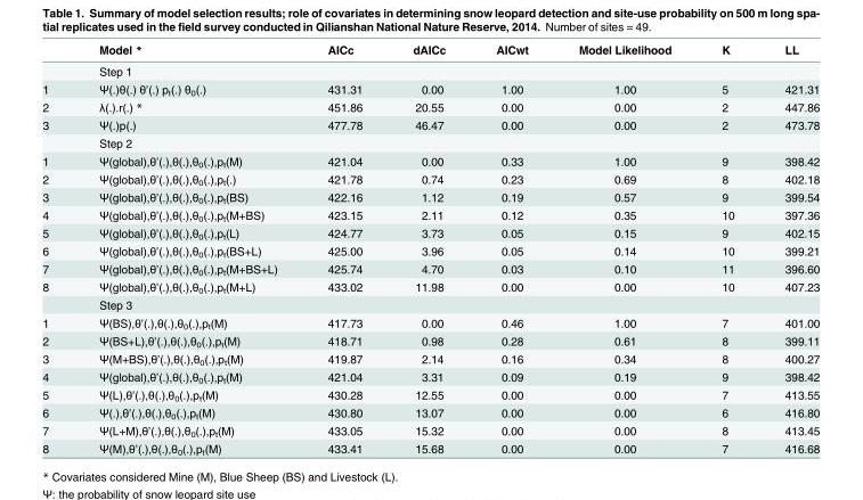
<table><thead><tr><td></td><td>Model *</td><td>AICc</td><td>dAICc</td><td>AICwt</td><td>Model Likelihood</td><td>K</td><td>LL</td></tr></thead><tbody><tr><td></td><td>Step 1</td><td></td><td></td><td></td><td></td><td></td><td></td></tr><tr><td>1</td><td>Ψ(.)θ(.) θ’(.) p<sub>t</sub>(.) θ<sub>0</sub>(.)</td><td>431.31</td><td>0.00</td><td>1.00</td><td>1.00</td><td>5</td><td>421.31</td></tr><tr><td>2</td><td>λ(.).r(.) *</td><td>451.86</td><td>20.55</td><td>0.00</td><td>0.00</td><td>2</td><td>447.86</td></tr><tr><td rowspan="2">3</td><td>Ψ(.)p(.)</td><td>477.78</td><td>46.47</td><td>0.00</td><td>0.00</td><td>2</td><td>473.78</td></tr><tr><td>Step 2</td><td></td><td></td><td></td><td></td><td></td><td></td></tr><tr><td>1</td><td>Ψ(global),θ’(.),θ(.),θ<sub>0</sub>(.),p<sub>t</sub>(M)</td><td>421.04</td><td>0.00</td><td>0.33</td><td>1.00</td><td>9</td><td>398.42</td></tr><tr><td>2</td><td>Ψ(global),θ’(.),θ(.),θ<sub>0</sub>(.),p<sub>t</sub>(.)</td><td>421.78</td><td>0.74</td><td>0.23</td><td>0.69</td><td>8</td><td>402.18</td></tr><tr><td>3</td><td>Ψ(global),θ’(.),θ(.),θ<sub>0</sub>(.),p<sub>t</sub>(BS)</td><td>422.16</td><td>1.12</td><td>0.19</td><td>0.57</td><td>9</td><td>399.54</td></tr><tr><td>4</td><td>Ψ(global),θ’(.),θ(.),θ<sub>0</sub>(.),p<sub>t</sub>(M+BS)</td><td>423.15</td><td>2.11</td><td>0.12</td><td>0.35</td><td>10</td><td>397.36</td></tr><tr><td>5</td><td>Ψ(global),θ’(.),θ(.),θ<sub>0</sub>(.),p<sub>t</sub>(L)</td><td>424.77</td><td>3.73</td><td>0.05</td><td>0.15</td><td>9</td><td>402.15</td></tr><tr><td>6</td><td>Ψ(global),θ’(.),θ(.),θ<sub>0</sub>(.),p<sub>t</sub>(BS+L)</td><td>425.00</td><td>3.96</td><td>0.05</td><td>0.14</td><td>10</td><td>399.21</td></tr><tr><td>7</td><td>Ψ(global),θ’(.),θ(.),θ<sub>0</sub>(.),p<sub>t</sub>(M+BS+L)</td><td>425.74</td><td>4.70</td><td>0.03</td><td>0.10</td><td>11</td><td>396.60</td></tr><tr><td rowspan="2">8</td><td>Ψ(global),θ’(.),θ(.),θ<sub>0</sub>(.),p<sub>t</sub>(M+L)</td><td>433.02</td><td>11.98</td><td>0.00</td><td>0.00</td><td>10</td><td>407.23</td></tr><tr><td>Step 3</td><td></td><td></td><td></td><td></td><td></td><td></td></tr><tr><td>1</td><td>Ψ(BS),θ’(.),θ(.),θ<sub>0</sub>(.),p<sub>t</sub>(M)</td><td>417.73</td><td>0.00</td><td>0.46</td><td>1.00</td><td>7</td><td>401.00</td></tr><tr><td>2</td><td>Ψ(BS+L),θ’(.),θ(.),θ<sub>0</sub>(.),p<sub>t</sub>(M)</td><td>418.71</td><td>0.98</td><td>0.28</td><td>0.61</td><td>8</td><td>399.11</td></tr><tr><td>3</td><td>Ψ(M+BS),θ’(.),θ(.),θ<sub>0</sub>(.),p<sub>t</sub>(M)</td><td>419.87</td><td>2.14</td><td>0.16</td><td>0.34</td><td>8</td><td>400.27</td></tr><tr><td>4</td><td>Ψ(global),θ’(.),θ(.),θ<sub>0</sub>(.),p<sub>t</sub>(M)</td><td>421.04</td><td>3.31</td><td>0.09</td><td>0.19</td><td>9</td><td>398.42</td></tr><tr><td>5</td><td>Ψ(L),θ’(.),θ(.),θ<sub>0</sub>(.),p<sub>t</sub>(M)</td><td>430.28</td><td>12.55</td><td>0.00</td><td>0.00</td><td>7</td><td>413.55</td></tr><tr><td>6</td><td>Ψ(.),θ’(.),θ(.),θ<sub>0</sub>(.),p<sub>t</sub>(M)</td><td>430.80</td><td>13.07</td><td>0.00</td><td>0.00</td><td>6</td><td>416.80</td></tr><tr><td>7</td><td>Ψ(L+M),θ’(.),θ(.),θ<sub>0</sub>(.),p<sub>t</sub>(M)</td><td>433.05</td><td>15.32</td><td>0.00</td><td>0.00</td><td>8</td><td>413.45</td></tr><tr><td>8</td><td>Ψ(M),θ’(.),θ(.),θ<sub>0</sub>(.),p<sub>t</sub>(M)</td><td>433.41</td><td>15.68</td><td>0.00</td><td>0.00</td><td>7</td><td>416.68</td></tr></tbody></table>